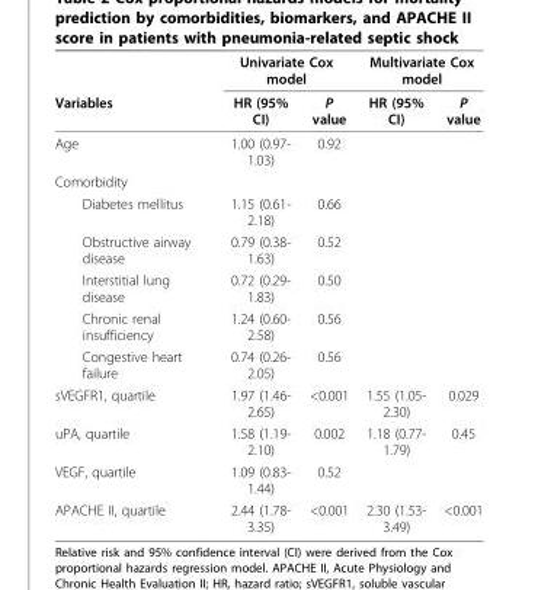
<table><thead><tr><td rowspan="2">Variables</td><td colspan="2">Univariate Cox model</td><td colspan="2">Multivariate Cox model</td></tr><tr><td>HR (95% CI)</td><td>P value</td><td>HR (95% CI)</td><td>P value</td></tr></thead><tbody><tr><td>Age</td><td>1.00 (0.97- 1.03)</td><td>0.92</td><td></td><td></td></tr><tr><td colspan="5">Comorbidity</td></tr><tr><td>Diabetes mellitus</td><td>1.15 (0.61- 2.18)</td><td>0.66</td><td></td><td></td></tr><tr><td>Obstructive airway disease</td><td>0.79 (0.38- 1.63)</td><td>0.52</td><td></td><td></td></tr><tr><td>Interstitial lung disease</td><td>0.72 (0.29- 1.83)</td><td>0.50</td><td></td><td></td></tr><tr><td>Chronic renal insufficiency</td><td>1.24 (0.60- 2.58)</td><td>0.56</td><td></td><td></td></tr><tr><td>Congestive heart failure</td><td>0.74 (0.26- 2.05)</td><td>0.56</td><td></td><td></td></tr><tr><td>sVEGFR1, quartile</td><td>1.97 (1.46- 2.65)</td><td>&lt;0.001</td><td>1.55 (1.05- 2.30)</td><td>0.029</td></tr><tr><td>uPA, quartile</td><td>1.58 (1.19- 2.10)</td><td>0.002</td><td>1.18 (0.77- 1.79)</td><td>0.45</td></tr><tr><td>VEGF, quartile</td><td>1.09 (0.83- 1.44)</td><td>0.52</td><td></td><td></td></tr><tr><td>APACHE II, quartile</td><td>2.44 (1.78- 3.35)</td><td>&lt;0.001</td><td>2.30 (1.53- 3.49)</td><td>&lt;0.001</td></tr></tbody></table>